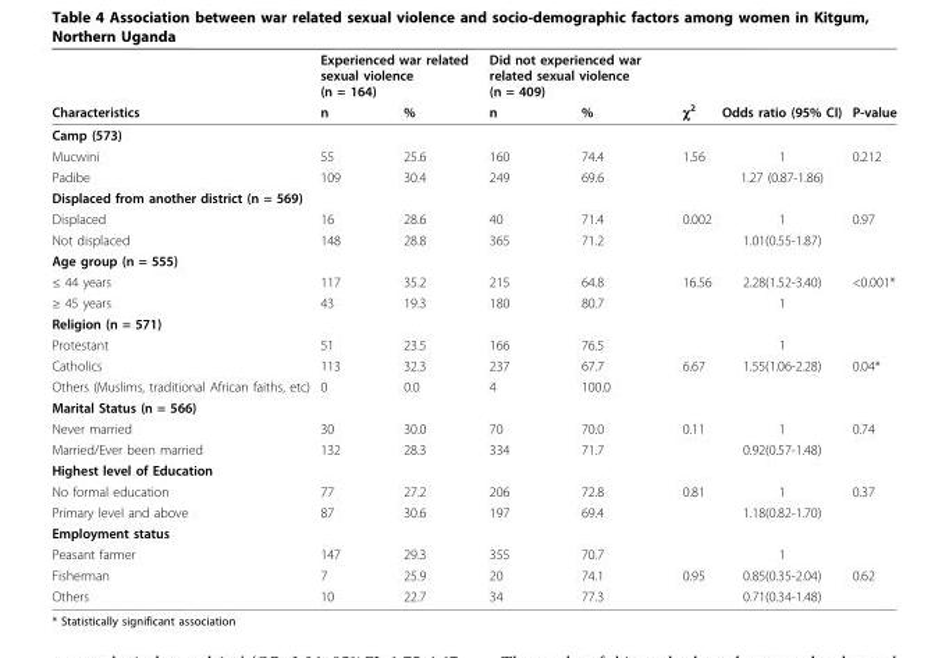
<table><thead><tr><td rowspan="2">Characteristics</td><td colspan="2">Experienced war related sexual violence (n = 164)</td><td colspan="2">Did not experienced war related sexual violence (n = 409)</td><td rowspan="2">χ<sup>2</sup></td><td rowspan="2">Odds ratio (95% CI)</td><td rowspan="2">P-value</td></tr><tr><td>n</td><td>%</td><td>n</td><td>%</td></tr></thead><tbody><tr><td colspan="8">Camp (573)</td></tr><tr><td>Mucwini</td><td>55</td><td>25.6</td><td>160</td><td>74.4</td><td>1.56</td><td>1</td><td>0.212</td></tr><tr><td>Padibe</td><td>109</td><td>30.4</td><td>249</td><td>69.6</td><td></td><td>1.27 (0.87-1.86)</td><td></td></tr><tr><td colspan="8">Displaced from another district (n = 569)</td></tr><tr><td>Displaced</td><td>16</td><td>28.6</td><td>40</td><td>71.4</td><td>0.002</td><td>1</td><td>0.97</td></tr><tr><td>Not displaced</td><td>148</td><td>28.8</td><td>365</td><td>71.2</td><td></td><td>1.01(0.55-1.87)</td><td></td></tr><tr><td colspan="8">Age group (n = 555)</td></tr><tr><td>≤ 44 years</td><td>117</td><td>35.2</td><td>215</td><td>64.8</td><td>16.56</td><td>2.28(1.52-3.40)</td><td>&lt;0.001*</td></tr><tr><td>≥ 45 years</td><td>43</td><td>19.3</td><td>180</td><td>80.7</td><td></td><td>1</td><td></td></tr><tr><td colspan="8">Religion (n = 571)</td></tr><tr><td>Protestant</td><td>51</td><td>23.5</td><td>166</td><td>76.5</td><td></td><td>1</td><td></td></tr><tr><td>Catholics</td><td>113</td><td>32.3</td><td>237</td><td>67.7</td><td>6.67</td><td>1.55(1.06-2.28)</td><td>0.04*</td></tr><tr><td>Others (Muslims, traditional African faiths, etc)</td><td>0</td><td>0.0</td><td>4</td><td>100.0</td><td></td><td></td><td></td></tr><tr><td colspan="8">Marital Status (n = 566)</td></tr><tr><td>Never married</td><td>30</td><td>30.0</td><td>70</td><td>70.0</td><td>0.11</td><td>1</td><td>0.74</td></tr><tr><td>Married/Ever been married</td><td>132</td><td>28.3</td><td>334</td><td>71.7</td><td></td><td>0.92(0.57-1.48)</td><td></td></tr><tr><td colspan="8">Highest level of Education</td></tr><tr><td>No formal education</td><td>77</td><td>27.2</td><td>206</td><td>72.8</td><td>0.81</td><td>1</td><td>0.37</td></tr><tr><td>Primary level and above</td><td>87</td><td>30.6</td><td>197</td><td>69.4</td><td></td><td>1.18(0.82-1.70)</td><td></td></tr><tr><td colspan="8">Employment status</td></tr><tr><td>Peasant farmer</td><td>147</td><td>29.3</td><td>355</td><td>70.7</td><td></td><td>1</td><td></td></tr><tr><td>Fisherman</td><td>7</td><td>25.9</td><td>20</td><td>74.1</td><td>0.95</td><td>0.85(0.35-2.04)</td><td>0.62</td></tr><tr><td>Others</td><td>10</td><td>22.7</td><td>34</td><td>77.3</td><td></td><td>0.71(0.34-1.48)</td><td></td></tr></tbody></table>